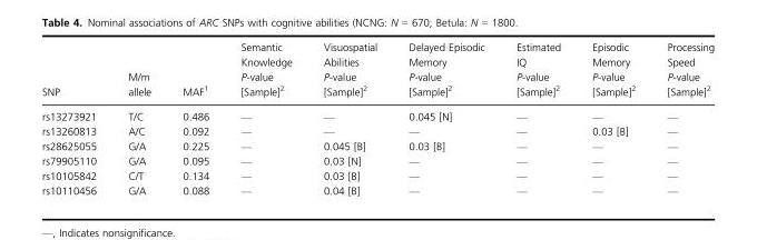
<table><thead><tr><td>SNP</td><td>M/m allele</td><td>MAF1</td><td>Semantic Knowledge P-value [Sample]2</td><td>Visuospatial Abilities P-value [Sample]2</td><td>Delayed Episodic Memory P-value [Sample]2</td><td>Estimated IQ P-value [Sample]2</td><td>Episodic Memory P-value [Sample]2</td><td>Processing Speed P-value [Sample]2</td></tr></thead><tbody><tr><td>rs13273921</td><td>T/C</td><td>0.486</td><td>—</td><td>—</td><td>0.045 [N]</td><td>—</td><td>—</td><td>—</td></tr><tr><td>rs13260813</td><td>A/C</td><td>0.092</td><td>—</td><td>—</td><td>—</td><td>—</td><td>0.03 [B]</td><td>—</td></tr><tr><td>rs28625055</td><td>G/A</td><td>0.225</td><td>—</td><td>0.045 [B]</td><td>0.03 [B]</td><td>—</td><td>—</td><td>—</td></tr><tr><td>rs79905110</td><td>G/A</td><td>0.095</td><td>—</td><td>0.03 [N]</td><td>—</td><td>—</td><td>—</td><td>—</td></tr><tr><td>rs10105842</td><td>C/T</td><td>0.134</td><td>—</td><td>0.03 [B]</td><td>—</td><td>—</td><td>—</td><td>—</td></tr><tr><td>rs10110456</td><td>G/A</td><td>0.088</td><td>—</td><td>0.04 [B]</td><td>—</td><td>—</td><td>—</td><td>—</td></tr></tbody></table>